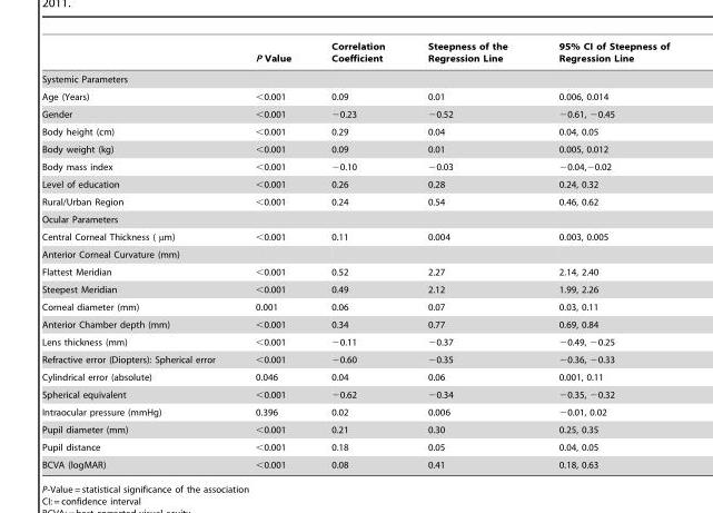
<table><thead><tr><td></td><td>P Value</td><td>Correlation Coefficient</td><td>Steepness of the Regression Line</td><td>95% CI of Steepness of Regression Line</td></tr></thead><tbody><tr><td colspan="5">Systemic Parameters</td></tr><tr><td>Age (Years)</td><td>&lt;0.001</td><td>0.09</td><td>0.01</td><td>0.006, 0.014</td></tr><tr><td>Gender</td><td>&lt;0.001</td><td>−0.23</td><td>−0.52</td><td>−0.61, −0.45</td></tr><tr><td>Body height (cm)</td><td>&lt;0.001</td><td>0.29</td><td>0.04</td><td>0.04, 0.05</td></tr><tr><td>Body weight (kg)</td><td>&lt;0.001</td><td>0.09</td><td>0.01</td><td>0.005, 0.012</td></tr><tr><td>Body mass index</td><td>&lt;0.001</td><td>−0.10</td><td>−0.03</td><td>−0.04,−0.02</td></tr><tr><td>Level of education</td><td>&lt;0.001</td><td>0.26</td><td>0.28</td><td>0.24, 0.32</td></tr><tr><td>Rural/Urban Region</td><td>&lt;0.001</td><td>0.24</td><td>0.54</td><td>0.46, 0.62</td></tr><tr><td colspan="5">Ocular Parameters</td></tr><tr><td>Central Corneal Thickness ( µm)</td><td>&lt;0.001</td><td>0.11</td><td>0.004</td><td>0.003, 0.005</td></tr><tr><td colspan="5">Anterior Corneal Curvature (mm)</td></tr><tr><td>Flattest Meridian</td><td>&lt;0.001</td><td>0.52</td><td>2.27</td><td>2.14, 2.40</td></tr><tr><td>Steepest Meridian</td><td>&lt;0.001</td><td>0.49</td><td>2.12</td><td>1.99, 2.26</td></tr><tr><td>Corneal diameter (mm)</td><td>0.001</td><td>0.06</td><td>0.07</td><td>0.03, 0.11</td></tr><tr><td>Anterior Chamber depth (mm)</td><td>&lt;0.001</td><td>0.34</td><td>0.77</td><td>0.69, 0.84</td></tr><tr><td>Lens thickness (mm)</td><td>&lt;0.001</td><td>−0.11</td><td>−0.37</td><td>−0.49, −0.25</td></tr><tr><td>Refractive error (Diopters): Spherical error</td><td>&lt;0.001</td><td>−0.60</td><td>−0.35</td><td>−0.36, −0.33</td></tr><tr><td>Cylindrical error (absolute)</td><td>0.046</td><td>0.04</td><td>0.06</td><td>0.001, 0.11</td></tr><tr><td>Spherical equivalent</td><td>&lt;0.001</td><td>−0.62</td><td>−0.34</td><td>−0.35, −0.32</td></tr><tr><td>Intraocular pressure (mmHg)</td><td>0.396</td><td>0.02</td><td>0.006</td><td>−0.01, 0.02</td></tr><tr><td>Pupil diameter (mm)</td><td>&lt;0.001</td><td>0.21</td><td>0.30</td><td>0.25, 0.35</td></tr><tr><td>Pupil distance</td><td>&lt;0.001</td><td>0.18</td><td>0.05</td><td>0.04, 0.05</td></tr><tr><td>BCVA (logMAR)</td><td>&lt;0.001</td><td>0.08</td><td>0.41</td><td>0.18, 0.63</td></tr></tbody></table>